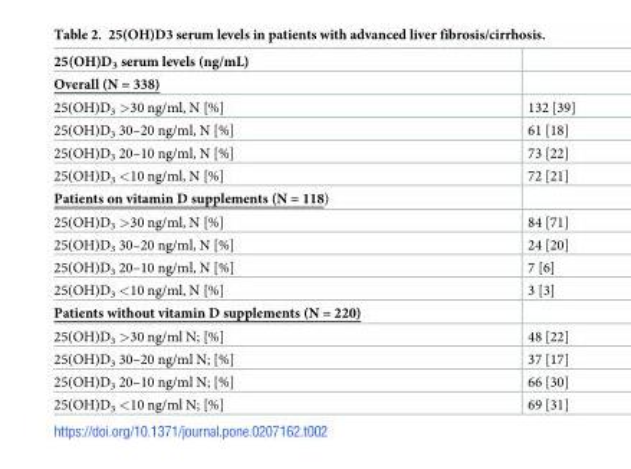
<table><thead><tr><td>25(OH)D<sub>3</sub> serum levels (ng/mL)</td><td></td></tr></thead><tbody><tr><td colspan="2">Overall (N = 338)</td></tr><tr><td>25(OH)D<sub>3</sub> &gt;30 ng/ml, N [%]</td><td>132 [39]</td></tr><tr><td>25(OH)D<sub>3</sub> 30–20 ng/ml, N [%]</td><td>61 [18]</td></tr><tr><td>25(OH)D<sub>3</sub> 20–10 ng/ml, N [%]</td><td>73 [22]</td></tr><tr><td>25(OH)D<sub>3</sub> &lt;10 ng/ml, N [%]</td><td>72 [21]</td></tr><tr><td colspan="2">Patients on vitamin D supplements (N = 118)</td></tr><tr><td>25(OH)D<sub>3</sub> &gt;30 ng/ml, N [%]</td><td>84 [71]</td></tr><tr><td>25(OH)D<sub>3</sub> 30–20 ng/ml, N [%]</td><td>24 [20]</td></tr><tr><td>25(OH)D<sub>3</sub> 20–10 ng/ml, N [%]</td><td>7 [6]</td></tr><tr><td>25(OH)D<sub>3</sub> &lt;10 ng/ml, N [%]</td><td>3 [3]</td></tr><tr><td colspan="2">Patients without vitamin D supplements (N = 220)</td></tr><tr><td>25(OH)D<sub>3</sub> &gt;30 ng/ml N; [%]</td><td>48 [22]</td></tr><tr><td>25(OH)D<sub>3</sub> 30–20 ng/ml N; [%]</td><td>37 [17]</td></tr><tr><td>25(OH)D<sub>3</sub> 20–10 ng/ml N; [%]</td><td>66 [30]</td></tr><tr><td>25(OH)D<sub>3</sub> &lt;10 ng/ml N; [%]</td><td>69 [31]</td></tr></tbody></table>